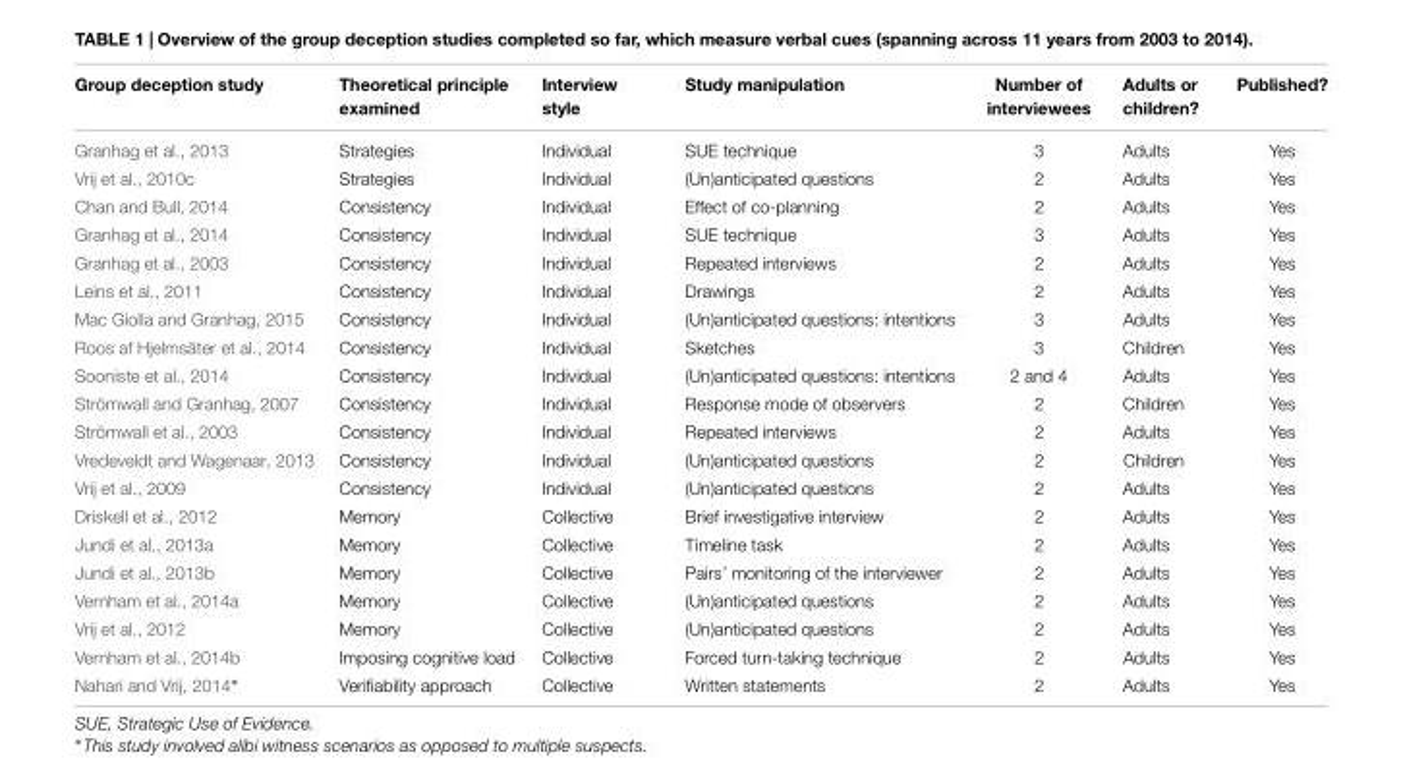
<table><thead><tr><td>Group deception study</td><td>Theoretical principle examined</td><td>Interview style</td><td>Study manipulation</td><td>Number of interviewees</td><td>Adults or children?</td><td>Published?</td></tr></thead><tbody><tr><td>Granhag et al., 2013</td><td>Strategies</td><td>Individual</td><td>SUE technique</td><td>3</td><td>Adults</td><td>Yes</td></tr><tr><td>Vrij et al., 2010c</td><td>Strategies</td><td>Individual</td><td>(Un)anticipated questions</td><td>2</td><td>Adults</td><td>Yes</td></tr><tr><td>Chan and Bull, 2014</td><td>Consistency</td><td>Individual</td><td>Effect of co-planning</td><td>2</td><td>Adults</td><td>Yes</td></tr><tr><td>Granhag et al., 2014</td><td>Consistency</td><td>Individual</td><td>SUE technique</td><td>3</td><td>Adults</td><td>Yes</td></tr><tr><td>Granhag et al., 2003</td><td>Consistency</td><td>Individual</td><td>Repeated interviews</td><td>2</td><td>Adults</td><td>Yes</td></tr><tr><td>Leins et al., 2011</td><td>Consistency</td><td>Individual</td><td>Drawings</td><td>2</td><td>Adults</td><td>Yes</td></tr><tr><td>Mac Giolla and Granhag, 2015</td><td>Consistency</td><td>Individual</td><td>(Un)anticipated questions: intentions</td><td>3</td><td>Adults</td><td>Yes</td></tr><tr><td>Roos af Hjelmsäter et al., 2014</td><td>Consistency</td><td>Individual</td><td>Sketches</td><td>3</td><td>Children</td><td>Yes</td></tr><tr><td>Sooniste et al., 2014</td><td>Consistency</td><td>Individual</td><td>(Un)anticipated questions: intentions</td><td>2 and 4</td><td>Adults</td><td>Yes</td></tr><tr><td>Strömwall and Granhag, 2007</td><td>Consistency</td><td>Individual</td><td>Response mode of observers</td><td>2</td><td>Children</td><td>Yes</td></tr><tr><td>Strömwall et al., 2003</td><td>Consistency</td><td>Individual</td><td>Repeated interviews</td><td>2</td><td>Adults</td><td>Yes</td></tr><tr><td>Vredeveldt and Wagenaar, 2013</td><td>Consistency</td><td>Individual</td><td>(Un)anticipated questions</td><td>2</td><td>Children</td><td>Yes</td></tr><tr><td>Vrij et al., 2009</td><td>Consistency</td><td>Individual</td><td>(Un)anticipated questions</td><td>2</td><td>Adults</td><td>Yes</td></tr><tr><td>Driskell et al., 2012</td><td>Memory</td><td>Collective</td><td>Brief investigative interview</td><td>2</td><td>Adults</td><td>Yes</td></tr><tr><td>Jundi et al., 2013a</td><td>Memory</td><td>Collective</td><td>Timeline task</td><td>2</td><td>Adults</td><td>Yes</td></tr><tr><td>Jundi et al., 2013b</td><td>Memory</td><td>Collective</td><td>Pairs’ monitoring of the interviewer</td><td>2</td><td>Adults</td><td>Yes</td></tr><tr><td>Vernham et al., 2014a</td><td>Memory</td><td>Collective</td><td>(Un)anticipated questions</td><td>2</td><td>Adults</td><td>Yes</td></tr><tr><td>Vrij et al., 2012</td><td>Memory</td><td>Collective</td><td>(Un)anticipated questions</td><td>2</td><td>Adults</td><td>Yes</td></tr><tr><td>Vernham et al., 2014b</td><td>Imposing cognitive load</td><td>Collective</td><td>Forced turn-taking technique</td><td>2</td><td>Adults</td><td>Yes</td></tr><tr><td>Nahari and Vrij, 2014∗</td><td>Verifiability approach</td><td>Collective</td><td>Written statements</td><td>2</td><td>Adults</td><td>Yes</td></tr></tbody></table>